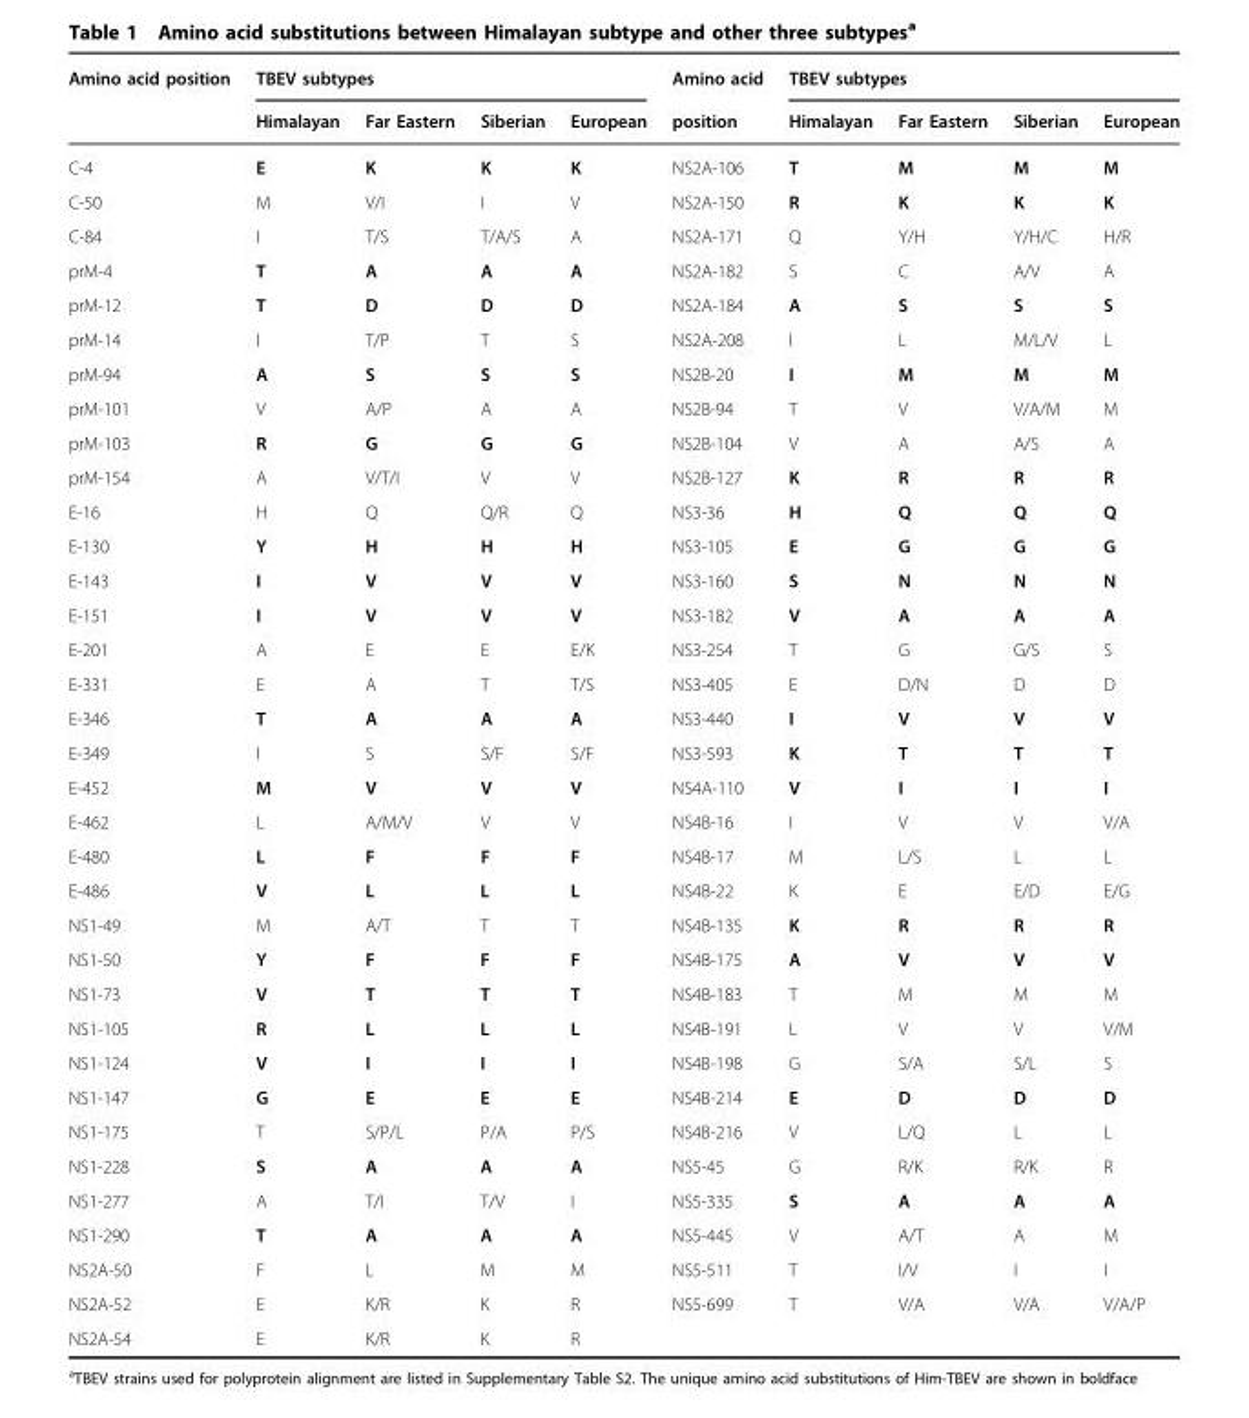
<table><thead><tr><td rowspan="2">Amino acid position</td><td colspan="4">TBEV subtypes</td><td rowspan="2">Amino acid position</td><td colspan="4">TBEV subtypes</td></tr><tr><td>Himalayan</td><td>Far Eastern</td><td>Siberian</td><td>European</td><td>Himalayan</td><td>Far Eastern</td><td>Siberian</td><td>European</td></tr></thead><tbody><tr><td>C-4</td><td>E</td><td>K</td><td>K</td><td>K</td><td>NS2A-106</td><td>T</td><td>M</td><td>M</td><td>M</td></tr><tr><td>C-50</td><td>M</td><td>V/I</td><td>I</td><td>V</td><td>NS2A-150</td><td>R</td><td>K</td><td>K</td><td>K</td></tr><tr><td>C-84</td><td>I</td><td>T/S</td><td>T/A/S</td><td>A</td><td>NS2A-171</td><td>Q</td><td>Y/H</td><td>Y/H/C</td><td>H/R</td></tr><tr><td>prM-4</td><td>T</td><td>A</td><td>A</td><td>A</td><td>NS2A-182</td><td>S</td><td>C</td><td>A/V</td><td>A</td></tr><tr><td>prM-12</td><td>T</td><td>D</td><td>D</td><td>D</td><td>NS2A-184</td><td>A</td><td>S</td><td>S</td><td>S</td></tr><tr><td>prM-14</td><td>I</td><td>T/P</td><td>T</td><td>S</td><td>NS2A-208</td><td>I</td><td>L</td><td>M/L/V</td><td>L</td></tr><tr><td>prM-94</td><td>A</td><td>S</td><td>S</td><td>S</td><td>NS2B-20</td><td>I</td><td>M</td><td>M</td><td>M</td></tr><tr><td>prM-101</td><td>V</td><td>A/P</td><td>A</td><td>A</td><td>NS2B-94</td><td>T</td><td>V</td><td>V/A/M</td><td>M</td></tr><tr><td>prM-103</td><td>R</td><td>G</td><td>G</td><td>G</td><td>NS2B-104</td><td>V</td><td>A</td><td>A/S</td><td>A</td></tr><tr><td>prM-154</td><td>A</td><td>V/T/I</td><td>V</td><td>V</td><td>NS2B-127</td><td>K</td><td>R</td><td>R</td><td>R</td></tr><tr><td>E-16</td><td>H</td><td>Q</td><td>Q/R</td><td>Q</td><td>NS3-36</td><td>H</td><td>Q</td><td>Q</td><td>Q</td></tr><tr><td>E-130</td><td>Y</td><td>H</td><td>H</td><td>H</td><td>NS3-105</td><td>E</td><td>G</td><td>G</td><td>G</td></tr><tr><td>E-143</td><td>I</td><td>V</td><td>V</td><td>V</td><td>NS3-160</td><td>S</td><td>N</td><td>N</td><td>N</td></tr><tr><td>E-151</td><td>I</td><td>V</td><td>V</td><td>V</td><td>NS3-182</td><td>V</td><td>A</td><td>A</td><td>A</td></tr><tr><td>E-201</td><td>A</td><td>E</td><td>E</td><td>E/K</td><td>NS3-254</td><td>T</td><td>G</td><td>G/S</td><td>S</td></tr><tr><td>E-331</td><td>E</td><td>A</td><td>T</td><td>T/S</td><td>NS3-405</td><td>E</td><td>D/N</td><td>D</td><td>D</td></tr><tr><td>E-346</td><td>T</td><td>A</td><td>A</td><td>A</td><td>NS3-440</td><td>I</td><td>V</td><td>V</td><td>V</td></tr><tr><td>E-349</td><td>I</td><td>S</td><td>S/F</td><td>S/F</td><td>NS3-593</td><td>K</td><td>T</td><td>T</td><td>T</td></tr><tr><td>E-452</td><td>M</td><td>V</td><td>V</td><td>V</td><td>NS4A-110</td><td>V</td><td>I</td><td>I</td><td>I</td></tr><tr><td>E-462</td><td>L</td><td>A/M/V</td><td>V</td><td>V</td><td>NS4B-16</td><td>I</td><td>V</td><td>V</td><td>V/A</td></tr><tr><td>E-480</td><td>L</td><td>F</td><td>F</td><td>F</td><td>NS4B-17</td><td>M</td><td>L/S</td><td>L</td><td>L</td></tr><tr><td>E-486</td><td>V</td><td>L</td><td>L</td><td>L</td><td>NS4B-22</td><td>K</td><td>E</td><td>E/D</td><td>E/G</td></tr><tr><td>NS1-49</td><td>M</td><td>A/T</td><td>T</td><td>T</td><td>NS4B-135</td><td>K</td><td>R</td><td>R</td><td>R</td></tr><tr><td>NS1-50</td><td>Y</td><td>F</td><td>F</td><td>F</td><td>NS4B-175</td><td>A</td><td>V</td><td>V</td><td>V</td></tr><tr><td>NS1-73</td><td>V</td><td>T</td><td>T</td><td>T</td><td>NS4B-183</td><td>T</td><td>M</td><td>M</td><td>M</td></tr><tr><td>NS1-105</td><td>R</td><td>L</td><td>L</td><td>L</td><td>NS4B-191</td><td>L</td><td>V</td><td>V</td><td>V/M</td></tr><tr><td>NS1-124</td><td>V</td><td>I</td><td>I</td><td>I</td><td>NS4B-198</td><td>G</td><td>S/A</td><td>S/L</td><td>S</td></tr><tr><td>NS1-147</td><td>G</td><td>E</td><td>E</td><td>E</td><td>NS4B-214</td><td>E</td><td>D</td><td>D</td><td>D</td></tr><tr><td>NS1-175</td><td>T</td><td>S/P/L</td><td>P/A</td><td>P/S</td><td>NS4B-216</td><td>V</td><td>L/Q</td><td>L</td><td>L</td></tr><tr><td>NS1-228</td><td>S</td><td>A</td><td>A</td><td>A</td><td>NS5-45</td><td>G</td><td>R/K</td><td>R/K</td><td>R</td></tr><tr><td>NS1-277</td><td>A</td><td>T/I</td><td>T/V</td><td>I</td><td>NS5-335</td><td>S</td><td>A</td><td>A</td><td>A</td></tr><tr><td>NS1-290</td><td>T</td><td>A</td><td>A</td><td>A</td><td>NS5-445</td><td>V</td><td>A/T</td><td>A</td><td>M</td></tr><tr><td>NS2A-50</td><td>F</td><td>L</td><td>M</td><td>M</td><td>NS5-511</td><td>T</td><td>I/V</td><td>I</td><td>I</td></tr><tr><td>NS2A-52</td><td>E</td><td>K/R</td><td>K</td><td>R</td><td>NS5-699</td><td>T</td><td>V/A</td><td>V/A</td><td>V/A/P</td></tr><tr><td>NS2A-54</td><td>E</td><td>K/R</td><td>K</td><td>R</td><td></td><td></td><td></td><td></td><td></td></tr></tbody></table>